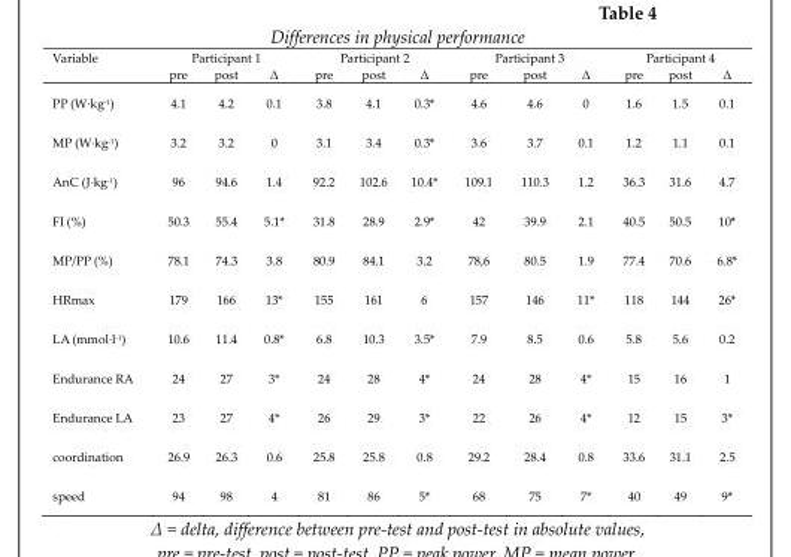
<table><thead><tr><td rowspan="2">Variable</td><td colspan="3">Participant 1</td><td colspan="3">Participant 2</td><td colspan="3">Participant 3</td><td colspan="3">Participant 4</td></tr><tr><td>pre</td><td>post</td><td>∆</td><td>pre</td><td>post</td><td>∆</td><td>pre</td><td>post</td><td>∆</td><td>pre</td><td>post</td><td>∆</td></tr></thead><tbody><tr><td>PP (W·kg<sup>-1</sup>)</td><td>4.1</td><td>4.2</td><td>0.1</td><td>3.8</td><td>4.1</td><td>0.3*</td><td>4.6</td><td>4.6</td><td>0</td><td>1.6</td><td>1.5</td><td>0.1</td></tr><tr><td>MP (W·kg<sup>-1</sup>)</td><td>3.2</td><td>3.2</td><td>0</td><td>3.1</td><td>3.4</td><td>0.3*</td><td>3.6</td><td>3.7</td><td>0.1</td><td>1.2</td><td>1.1</td><td>0.1</td></tr><tr><td>AnC (J·kg<sup>-1</sup>)</td><td>96</td><td>94.6</td><td>1.4</td><td>92.2</td><td>102.6</td><td>10.4*</td><td>109.1</td><td>110.3</td><td>1.2</td><td>36.3</td><td>31.6</td><td>4.7</td></tr><tr><td>FI (%)</td><td>50.3</td><td>55.4</td><td>5.1*</td><td>31.8</td><td>28.9</td><td>2.9*</td><td>42</td><td>39.9</td><td>2.1</td><td>40.5</td><td>50.5</td><td>10*</td></tr><tr><td>MP/PP (%)</td><td>78.1</td><td>74.3</td><td>3.8</td><td>80.9</td><td>84.1</td><td>3.2</td><td>78,6</td><td>80.5</td><td>1.9</td><td>77.4</td><td>70.6</td><td>6.8*</td></tr><tr><td>HRmax</td><td>179</td><td>166</td><td>13*</td><td>155</td><td>161</td><td>6</td><td>157</td><td>146</td><td>11*</td><td>118</td><td>144</td><td>26*</td></tr><tr><td>LA (mmol·l<sup>-1</sup>)</td><td>10.6</td><td>11.4</td><td>0.8*</td><td>6.8</td><td>10.3</td><td>3.5*</td><td>7.9</td><td>8.5</td><td>0.6</td><td>5.8</td><td>5.6</td><td>0.2</td></tr><tr><td>Endurance RA</td><td>24</td><td>27</td><td>3*</td><td>24</td><td>28</td><td>4*</td><td>24</td><td>28</td><td>4*</td><td>15</td><td>16</td><td>1</td></tr><tr><td>Endurance LA</td><td>23</td><td>27</td><td>4*</td><td>26</td><td>29</td><td>3*</td><td>22</td><td>26</td><td>4*</td><td>12</td><td>15</td><td>3*</td></tr><tr><td>coordination</td><td>26.9</td><td>26.3</td><td>0.6</td><td>25.8</td><td>25.8</td><td>0.8</td><td>29.2</td><td>28.4</td><td>0.8</td><td>33.6</td><td>31.1</td><td>2.5</td></tr><tr><td>speed</td><td>94</td><td>98</td><td>4</td><td>81</td><td>86</td><td>5*</td><td>68</td><td>75</td><td>7*</td><td>40</td><td>49</td><td>9*</td></tr></tbody></table>